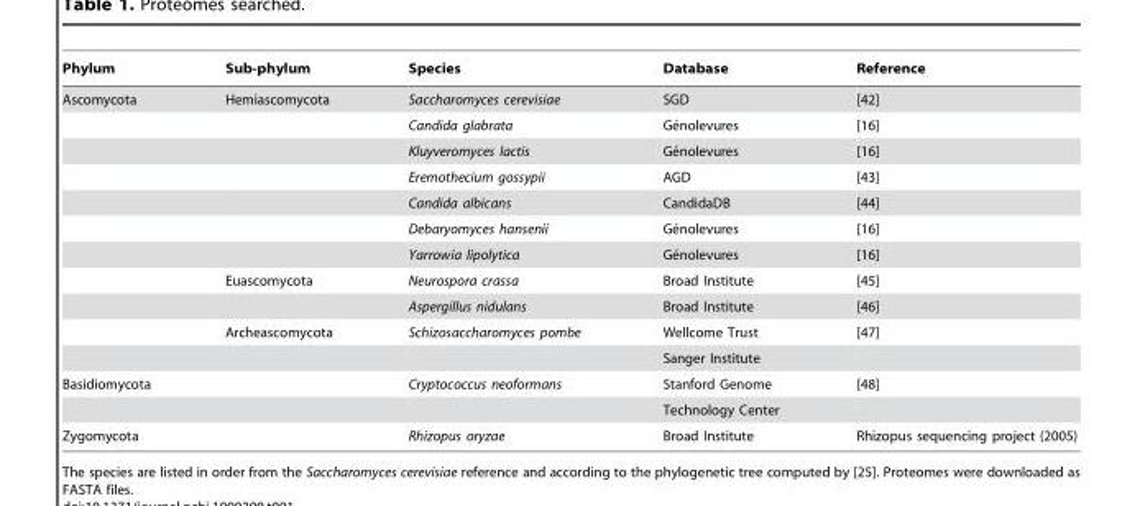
<table><thead><tr><td>Phylum</td><td>Sub-phylum</td><td>Species</td><td>Database</td><td>Reference</td></tr></thead><tbody><tr><td rowspan="11">Ascomycota</td><td>Hemiascomycota</td><td>Saccharomyces cerevisiae</td><td>SGD</td><td>[42]</td></tr><tr><td></td><td>Candida glabrata</td><td>Ge´nolevures</td><td>[16]</td></tr><tr><td></td><td>Kluyveromyces lactis</td><td>Ge´nolevures</td><td>[16]</td></tr><tr><td></td><td>Eremothecium gossypii</td><td>AGD</td><td>[43]</td></tr><tr><td></td><td>Candida albicans</td><td>CandidaDB</td><td>[44]</td></tr><tr><td></td><td>Debaryomyces hansenii</td><td>Ge´nolevures</td><td>[16]</td></tr><tr><td></td><td>Yarrowia lipolytica</td><td>Ge´nolevures</td><td>[16]</td></tr><tr><td>Euascomycota</td><td>Neurospora crassa</td><td>Broad Institute</td><td>[45]</td></tr><tr><td></td><td>Aspergillus nidulans</td><td>Broad Institute</td><td>[46]</td></tr><tr><td>Archeascomycota</td><td>Schizosaccharomyces pombe</td><td>Wellcome Trust</td><td>[47]</td></tr><tr><td></td><td></td><td>Sanger Institute</td><td></td></tr><tr><td rowspan="2">Basidiomycota</td><td></td><td>Cryptococcus neoformans</td><td>Stanford Genome</td><td>[48]</td></tr><tr><td></td><td></td><td>Technology Center</td><td></td></tr><tr><td>Zygomycota</td><td></td><td>Rhizopus oryzae</td><td>Broad Institute</td><td>Rhizopus sequencing project (2005)</td></tr></tbody></table>